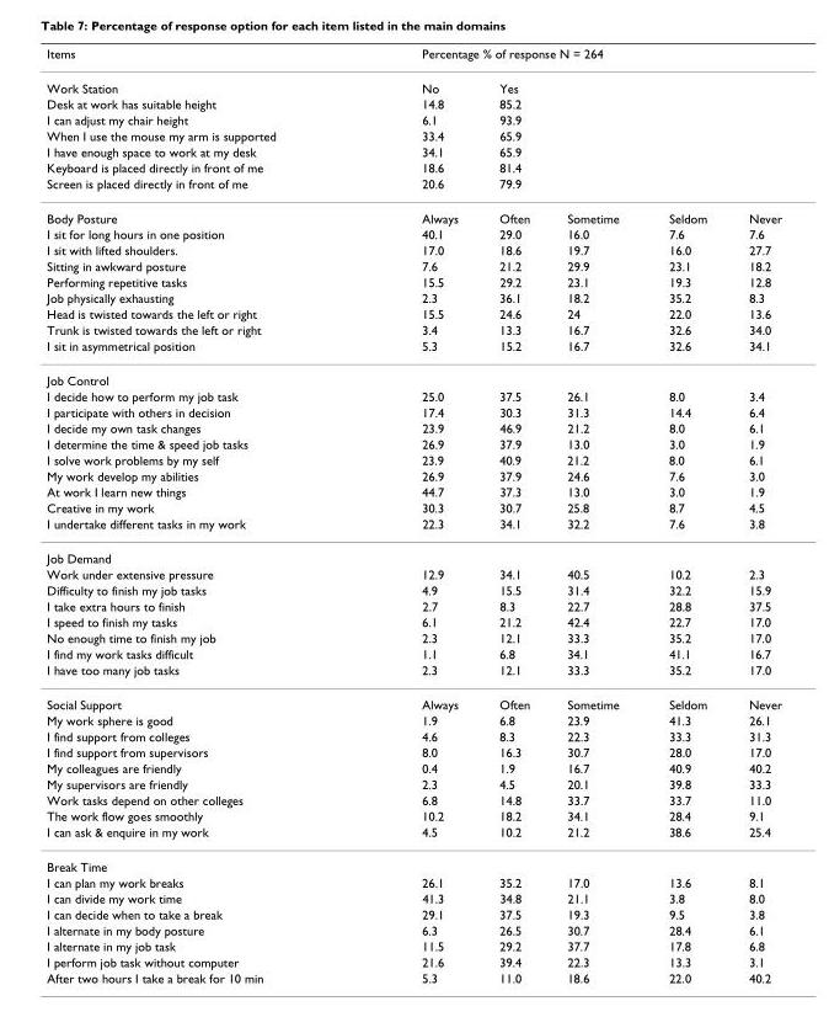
<table><thead><tr><td rowspan="2">Items Work Station</td><td colspan="5">Percentage % of response N = 264</td></tr><tr><td>No</td><td>Yes</td><td></td><td></td><td></td></tr></thead><tbody><tr><td>Desk at work has suitable height</td><td>14.8</td><td>85.2</td><td></td><td></td><td></td></tr><tr><td>I can adjust my chair height</td><td>6.1</td><td>93.9</td><td></td><td></td><td></td></tr><tr><td>When I use the mouse my arm is supported</td><td>33.4</td><td>65.9</td><td></td><td></td><td></td></tr><tr><td>I have enough space to work at my desk</td><td>34.1</td><td>65.9</td><td></td><td></td><td></td></tr><tr><td>Keyboard is placed directly in front of me</td><td>18.6</td><td>81.4</td><td></td><td></td><td></td></tr><tr><td>Screen is placed directly in front of me</td><td>20.6</td><td>79.9</td><td></td><td></td><td></td></tr><tr><td>Body Posture</td><td>Always</td><td>Often</td><td>Sometime</td><td>Seldom</td><td>Never</td></tr><tr><td>I sit for long hours in one position</td><td>40.1</td><td>29.0</td><td>16.0</td><td>7.6</td><td>7.6</td></tr><tr><td>I sit with lifted shoulders.</td><td>17.0</td><td>18.6</td><td>19.7</td><td>16.0</td><td>27.7</td></tr><tr><td>Sitting in awkward posture</td><td>7.6</td><td>21.2</td><td>29.9</td><td>23.1</td><td>18.2</td></tr><tr><td>Performing repetitive tasks</td><td>15.5</td><td>29.2</td><td>23.1</td><td>19.3</td><td>12.8</td></tr><tr><td>Job physically exhausting</td><td>2.3</td><td>36.1</td><td>18.2</td><td>35.2</td><td>8.3</td></tr><tr><td>Head is twisted towards the left or right</td><td>15.5</td><td>24.6</td><td>24</td><td>22.0</td><td>13.6</td></tr><tr><td>Trunk is twisted towards the left or right</td><td>3.4</td><td>13.3</td><td>16.7</td><td>32.6</td><td>34.0</td></tr><tr><td>I sit in asymmetrical position</td><td>5.3</td><td>15.2</td><td>16.7</td><td>32.6</td><td>34.1</td></tr><tr><td colspan="6">Job Control</td></tr><tr><td>I decide how to perform my job task</td><td>25.0</td><td>37.5</td><td>26.1</td><td>8.0</td><td>3.4</td></tr><tr><td>I participate with others in decision</td><td>17.4</td><td>30.3</td><td>31.3</td><td>14.4</td><td>6.4</td></tr><tr><td>I decide my own task changes</td><td>23.9</td><td>46.9</td><td>21.2</td><td>8.0</td><td>6.1</td></tr><tr><td>I determine the time &amp; speed job tasks</td><td>26.9</td><td>37.9</td><td>13.0</td><td>3.0</td><td>1.9</td></tr><tr><td>I solve work problems by my self</td><td>23.9</td><td>40.9</td><td>21.2</td><td>8.0</td><td>6.1</td></tr><tr><td>My work develop my abilities</td><td>26.9</td><td>37.9</td><td>24.6</td><td>7.6</td><td>3.0</td></tr><tr><td>At work I learn new things</td><td>44.7</td><td>37.3</td><td>13.0</td><td>3.0</td><td>1.9</td></tr><tr><td>Creative in my work</td><td>30.3</td><td>30.7</td><td>25.8</td><td>8.7</td><td>4.5</td></tr><tr><td>I undertake different tasks in my work</td><td>22.3</td><td>34.1</td><td>32.2</td><td>7.6</td><td>3.8</td></tr><tr><td colspan="6">Job Demand</td></tr><tr><td>Work under extensive pressure</td><td>12.9</td><td>34.1</td><td>40.5</td><td>10.2</td><td>2.3</td></tr><tr><td>Difficulty to finish my job tasks</td><td>4.9</td><td>15.5</td><td>31.4</td><td>32.2</td><td>15.9</td></tr><tr><td>I take extra hours to finish</td><td>2.7</td><td>8.3</td><td>22.7</td><td>28.8</td><td>37.5</td></tr><tr><td>I speed to finish my tasks</td><td>6.1</td><td>21.2</td><td>42.4</td><td>22.7</td><td>17.0</td></tr><tr><td>No enough time to finish my job</td><td>2.3</td><td>12.1</td><td>33.3</td><td>35.2</td><td>17.0</td></tr><tr><td>I find my work tasks difficult</td><td>1.1</td><td>6.8</td><td>34.1</td><td>41.1</td><td>16.7</td></tr><tr><td>I have too many job tasks</td><td>2.3</td><td>12.1</td><td>33.3</td><td>35.2</td><td>17.0</td></tr><tr><td>Social Support</td><td>Always</td><td>Often</td><td>Sometime</td><td>Seldom</td><td>Never</td></tr><tr><td>My work sphere is good</td><td>1.9</td><td>6.8</td><td>23.9</td><td>41.3</td><td>26.1</td></tr><tr><td>I find support from colleges</td><td>4.6</td><td>8.3</td><td>22.3</td><td>33.3</td><td>31.3</td></tr><tr><td>I find support from supervisors</td><td>8.0</td><td>16.3</td><td>30.7</td><td>28.0</td><td>17.0</td></tr><tr><td>My colleagues are friendly</td><td>0.4</td><td>1.9</td><td>16.7</td><td>40.9</td><td>40.2</td></tr><tr><td>My supervisors are friendly</td><td>2.3</td><td>4.5</td><td>20.1</td><td>39.8</td><td>33.3</td></tr><tr><td>Work tasks depend on other colleges</td><td>6.8</td><td>14.8</td><td>33.7</td><td>33.7</td><td>11.0</td></tr><tr><td>The work flow goes smoothly</td><td>10.2</td><td>18.2</td><td>34.1</td><td>28.4</td><td>9.1</td></tr><tr><td>I can ask &amp; enquire in my work</td><td>4.5</td><td>10.2</td><td>21.2</td><td>38.6</td><td>25.4</td></tr><tr><td colspan="6">Break Time</td></tr><tr><td>I can plan my work breaks</td><td>26.1</td><td>35.2</td><td>17.0</td><td>13.6</td><td>8.1</td></tr><tr><td>I can divide my work time</td><td>41.3</td><td>34.8</td><td>21.1</td><td>3.8</td><td>8.0</td></tr><tr><td>I can decide when to take a break</td><td>29.1</td><td>37.5</td><td>19.3</td><td>9.5</td><td>3.8</td></tr><tr><td>I alternate in my body posture</td><td>6.3</td><td>26.5</td><td>30.7</td><td>28.4</td><td>6.1</td></tr><tr><td>I alternate in my job task</td><td>11.5</td><td>29.2</td><td>37.7</td><td>17.8</td><td>6.8</td></tr><tr><td>I perform job task without computer</td><td>21.6</td><td>39.4</td><td>22.3</td><td>13.3</td><td>3.1</td></tr><tr><td>After two hours I take a break for 10 min</td><td>5.3</td><td>11.0</td><td>18.6</td><td>22.0</td><td>40.2</td></tr></tbody></table>